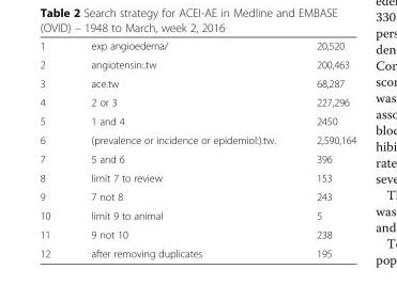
<table><tbody><tr><td>1</td><td>exp angioedema/</td><td>20,520</td></tr><tr><td>2</td><td>angiotensin:.tw</td><td>200,463</td></tr><tr><td>3</td><td>ace.tw</td><td>68,287</td></tr><tr><td>4</td><td>2 or 3</td><td>227,296</td></tr><tr><td>5</td><td>1 and 4</td><td>2450</td></tr><tr><td>6</td><td>(prevalence or incidence or epidemiol:).tw.</td><td>2,590,164</td></tr><tr><td>7</td><td>5 and 6</td><td>396</td></tr><tr><td>8</td><td>limit 7 to review</td><td>153</td></tr><tr><td>9</td><td>7 not 8</td><td>243</td></tr><tr><td>10</td><td>limit 9 to animal</td><td>5</td></tr><tr><td>11</td><td>9 not 10</td><td>238</td></tr><tr><td>12</td><td>after removing duplicates</td><td>195</td></tr></tbody></table>